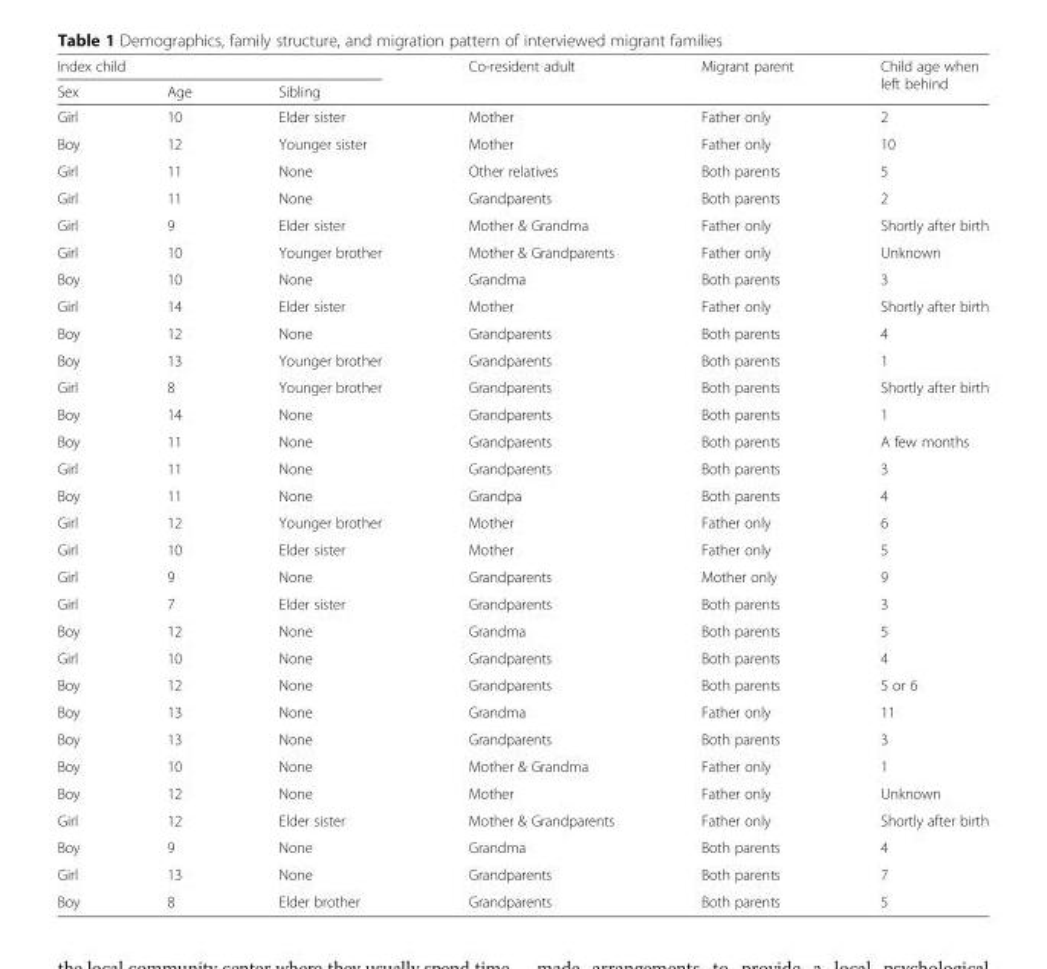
<table><thead><tr><td colspan="3">Index child</td><td rowspan="2">Co-resident adult</td><td rowspan="2">Migrant parent</td><td rowspan="2">Child age when left behind</td></tr><tr><td>Sex</td><td>Age</td><td>Sibling</td></tr></thead><tbody><tr><td>Girl</td><td>10</td><td>Elder sister</td><td>Mother</td><td>Father only</td><td>2</td></tr><tr><td>Boy</td><td>12</td><td>Younger sister</td><td>Mother</td><td>Father only</td><td>10</td></tr><tr><td>Girl</td><td>11</td><td>None</td><td>Other relatives</td><td>Both parents</td><td>5</td></tr><tr><td>Girl</td><td>11</td><td>None</td><td>Grandparents</td><td>Both parents</td><td>2</td></tr><tr><td>Girl</td><td>9</td><td>Elder sister</td><td>Mother &amp; Grandma</td><td>Father only</td><td>Shortly after birth</td></tr><tr><td>Girl</td><td>10</td><td>Younger brother</td><td>Mother &amp; Grandparents</td><td>Father only</td><td>Unknown</td></tr><tr><td>Boy</td><td>10</td><td>None</td><td>Grandma</td><td>Both parents</td><td>3</td></tr><tr><td>Girl</td><td>14</td><td>Elder sister</td><td>Mother</td><td>Father only</td><td>Shortly after birth</td></tr><tr><td>Boy</td><td>12</td><td>None</td><td>Grandparents</td><td>Both parents</td><td>4</td></tr><tr><td>Boy</td><td>13</td><td>Younger brother</td><td>Grandparents</td><td>Both parents</td><td>1</td></tr><tr><td>Girl</td><td>8</td><td>Younger brother</td><td>Grandparents</td><td>Both parents</td><td>Shortly after birth</td></tr><tr><td>Boy</td><td>14</td><td>None</td><td>Grandparents</td><td>Both parents</td><td>1</td></tr><tr><td>Boy</td><td>11</td><td>None</td><td>Grandparents</td><td>Both parents</td><td>A few months</td></tr><tr><td>Girl</td><td>11</td><td>None</td><td>Grandparents</td><td>Both parents</td><td>3</td></tr><tr><td>Boy</td><td>11</td><td>None</td><td>Grandpa</td><td>Both parents</td><td>4</td></tr><tr><td>Girl</td><td>12</td><td>Younger brother</td><td>Mother</td><td>Father only</td><td>6</td></tr><tr><td>Girl</td><td>10</td><td>Elder sister</td><td>Mother</td><td>Father only</td><td>5</td></tr><tr><td>Girl</td><td>9</td><td>None</td><td>Grandparents</td><td>Mother only</td><td>9</td></tr><tr><td>Girl</td><td>7</td><td>Elder sister</td><td>Grandparents</td><td>Both parents</td><td>3</td></tr><tr><td>Boy</td><td>12</td><td>None</td><td>Grandma</td><td>Both parents</td><td>5</td></tr><tr><td>Girl</td><td>10</td><td>None</td><td>Grandparents</td><td>Both parents</td><td>4</td></tr><tr><td>Boy</td><td>12</td><td>None</td><td>Grandparents</td><td>Both parents</td><td>5 or 6</td></tr><tr><td>Boy</td><td>13</td><td>None</td><td>Grandma</td><td>Father only</td><td>11</td></tr><tr><td>Boy</td><td>13</td><td>None</td><td>Grandparents</td><td>Both parents</td><td>3</td></tr><tr><td>Boy</td><td>10</td><td>None</td><td>Mother &amp; Grandma</td><td>Father only</td><td>1</td></tr><tr><td>Boy</td><td>12</td><td>None</td><td>Mother</td><td>Father only</td><td>Unknown</td></tr><tr><td>Girl</td><td>12</td><td>Elder sister</td><td>Mother &amp; Grandparents</td><td>Father only</td><td>Shortly after birth</td></tr><tr><td>Boy</td><td>9</td><td>None</td><td>Grandma</td><td>Both parents</td><td>4</td></tr><tr><td>Girl</td><td>13</td><td>None</td><td>Grandparents</td><td>Both parents</td><td>7</td></tr><tr><td>Boy</td><td>8</td><td>Elder brother</td><td>Grandparents</td><td>Both parents</td><td>5</td></tr></tbody></table>